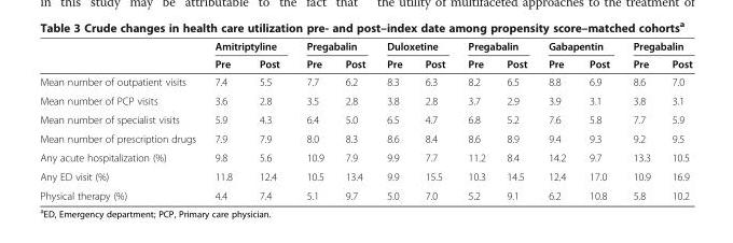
<table><thead><tr><td rowspan="2"></td><td colspan="2">Amitriptyline</td><td colspan="2">Pregabalin</td><td colspan="2">Duloxetine</td><td colspan="2">Pregabalin</td><td colspan="2">Gabapentin</td><td colspan="2">Pregabalin</td></tr><tr><td>Pre</td><td>Post</td><td>Pre</td><td>Post</td><td>Pre</td><td>Post</td><td>Pre</td><td>Post</td><td>Pre</td><td>Post</td><td>Pre</td><td>Post</td></tr></thead><tbody><tr><td>Mean number of outpatient visits</td><td>7.4</td><td>5.5</td><td>7.7</td><td>6.2</td><td>8.3</td><td>6.3</td><td>8.2</td><td>6.5</td><td>8.8</td><td>6.9</td><td>8.6</td><td>7.0</td></tr><tr><td>Mean number of PCP visits</td><td>3.6</td><td>2.8</td><td>3.5</td><td>2.8</td><td>3.8</td><td>2.8</td><td>3.7</td><td>2.9</td><td>3.9</td><td>3.1</td><td>3.8</td><td>3.1</td></tr><tr><td>Mean number of specialist visits</td><td>5.9</td><td>4.3</td><td>6.4</td><td>5.0</td><td>6.5</td><td>4.7</td><td>6.8</td><td>5.2</td><td>7.6</td><td>5.8</td><td>7.7</td><td>5.9</td></tr><tr><td>Mean number of prescription drugs</td><td>7.9</td><td>7.9</td><td>8.0</td><td>8.3</td><td>8.6</td><td>8.4</td><td>8.6</td><td>8.9</td><td>9.4</td><td>9.3</td><td>9.2</td><td>9.5</td></tr><tr><td>Any acute hospitalization (%)</td><td>9.8</td><td>5.6</td><td>10.9</td><td>7.9</td><td>9.9</td><td>7.7</td><td>11.2</td><td>8.4</td><td>14.2</td><td>9.7</td><td>13.3</td><td>10.5</td></tr><tr><td>Any ED visit (%)</td><td>11.8</td><td>12.4</td><td>10.5</td><td>13.4</td><td>9.9</td><td>15.5</td><td>10.3</td><td>14.5</td><td>12.4</td><td>17.0</td><td>10.9</td><td>16.9</td></tr><tr><td>Physical therapy (%)</td><td>4.4</td><td>7.4</td><td>5.1</td><td>9.7</td><td>5.0</td><td>7.0</td><td>5.2</td><td>9.1</td><td>6.2</td><td>10.8</td><td>5.8</td><td>10.2</td></tr></tbody></table>